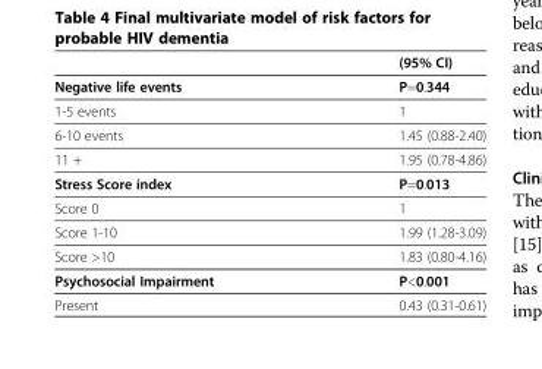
<table><thead><tr><td></td><td>(95% CI)</td></tr></thead><tbody><tr><td>Negative life events</td><td>P=0.344</td></tr><tr><td>1-5 events</td><td>1</td></tr><tr><td>6-10 events</td><td>1.45 (0.88-2.40)</td></tr><tr><td>11 +</td><td>1.95 (0.78-4.86)</td></tr><tr><td>Stress Score index</td><td>P=0.013</td></tr><tr><td>Score 0</td><td>1</td></tr><tr><td>Score 1-10</td><td>1.99 (1.28-3.09)</td></tr><tr><td>Score &gt;10</td><td>1.83 (0.80-4.16)</td></tr><tr><td>Psychosocial Impairment</td><td>P&lt;0.001</td></tr><tr><td>Present</td><td>0.43 (0.31-0.61)</td></tr></tbody></table>